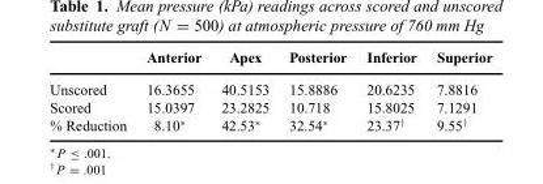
<table><thead><tr><td></td><td>Anterior</td><td>Apex</td><td>Posterior</td><td>Inferior</td><td>Superior</td></tr></thead><tbody><tr><td>Unscored</td><td>16.3655</td><td>40.5153</td><td>15.8886</td><td>20.6235</td><td>7.8816</td></tr><tr><td>Scored</td><td>15.0397</td><td>23.2825</td><td>10.718</td><td>15.8025</td><td>7.1291</td></tr><tr><td>% Reduction</td><td>8.10∗</td><td>42.53∗</td><td>32.54∗</td><td>23.37†</td><td>9.55†</td></tr></tbody></table>